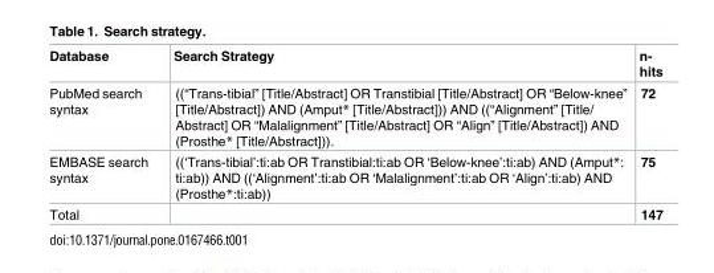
<table><thead><tr><td>Database</td><td>Search Strategy</td><td>n- hits</td></tr></thead><tbody><tr><td>PubMed search syntax</td><td>((“Trans-tibial” [Title/Abstract] OR Transtibial [Title/Abstract] OR “Below-knee” [Title/Abstract]) AND (Amput* [Title/Abstract])) AND ((“Alignment” [Title/ Abstract] OR “Malalignment” [Title/Abstract] OR “Align” [Title/Abstract]) AND (Prosthe* [Title/Abstract])).</td><td>72</td></tr><tr><td>EMBASE search syntax</td><td>((‘Trans-tibial’:ti:ab OR Transtibial:ti:ab OR ‘Below-knee’:ti:ab) AND (Amput*: ti:ab)) AND ((‘Alignment’:ti:ab OR ‘Malalignment’:ti:ab OR ‘Align’:ti:ab) AND (Prosthe*:ti:ab))</td><td>75</td></tr><tr><td>Total</td><td></td><td>147</td></tr></tbody></table>